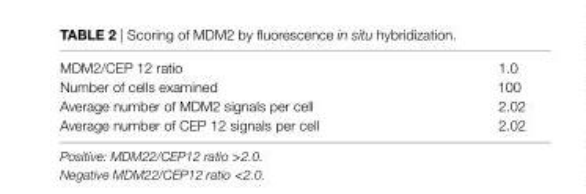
<table><tbody><tr><td>MDM2/CEP 12 ratio</td><td>1.0</td></tr><tr><td>Number of cells examined</td><td>100</td></tr><tr><td>Average number of MDM2 signals per cell</td><td>2.02</td></tr><tr><td>Average number of CEP 12 signals per cell</td><td>2.02</td></tr></tbody></table>